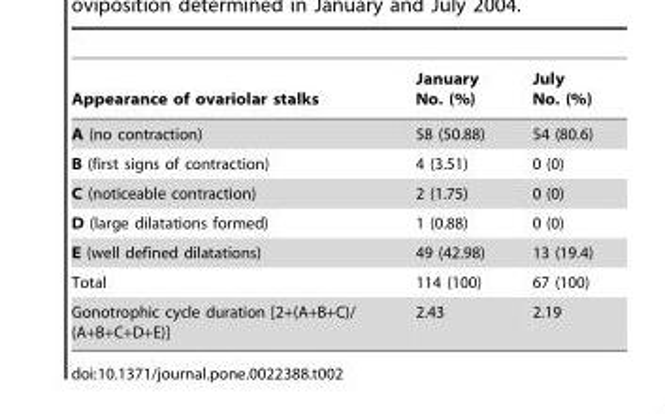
<table><thead><tr><td>Appearance of ovariolar stalks</td><td>January No. (%)</td><td>July No. (%)</td></tr></thead><tbody><tr><td>A (no contraction)</td><td>58 (50.88)</td><td>54 (80.6)</td></tr><tr><td>B (first signs of contraction)</td><td>4 (3.51)</td><td>0 (0)</td></tr><tr><td>C (noticeable contraction)</td><td>2 (1.75)</td><td>0 (0)</td></tr><tr><td>D (large dilatations formed)</td><td>1 (0.88)</td><td>0 (0)</td></tr><tr><td>E (well defined dilatations)</td><td>49 (42.98)</td><td>13 (19.4)</td></tr><tr><td>Total</td><td>114 (100)</td><td>67 (100)</td></tr><tr><td>Gonotrophic cycle duration [2+(A+B+C)/ (A+B+C+D+E)]</td><td>2.43</td><td>2.19</td></tr></tbody></table>